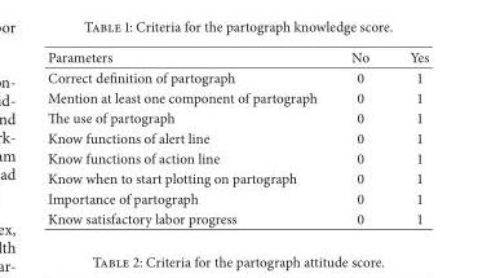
<table><thead><tr><td>Parameters</td><td>No</td><td>Yes</td></tr></thead><tbody><tr><td>Correct definition of partograph</td><td>0</td><td>1</td></tr><tr><td>Mention at least one component of partograph</td><td>0</td><td>1</td></tr><tr><td>The use of partograph</td><td>0</td><td>1</td></tr><tr><td>Know functions of alert line</td><td>0</td><td>1</td></tr><tr><td>Know functions of action line</td><td>0</td><td>1</td></tr><tr><td>Know when to start plotting on partograph</td><td>0</td><td>1</td></tr><tr><td>Importance of partograph</td><td>0</td><td>1</td></tr><tr><td>Know satisfactory labor progress</td><td>0</td><td>1</td></tr></tbody></table>